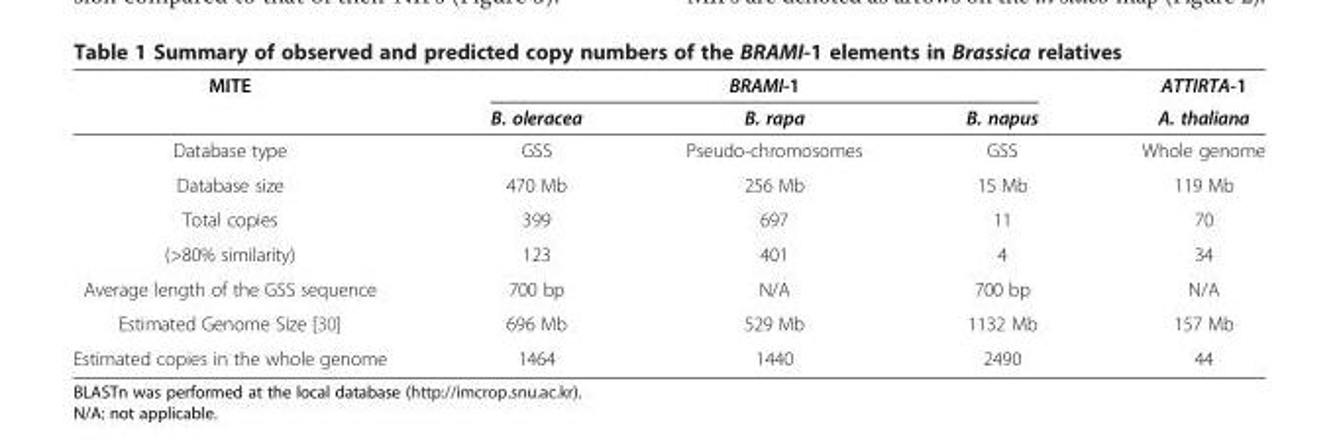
<table><thead><tr><td rowspan="2">MITE</td><td colspan="3">BRAMI-1</td><td rowspan="2">ATTIRTA-1 A. thaliana</td></tr><tr><td>B. oleracea</td><td>B. rapa</td><td>B. napus</td></tr></thead><tbody><tr><td>Database type</td><td>GSS</td><td>Pseudo-chromosomes</td><td>GSS</td><td>Whole genome</td></tr><tr><td>Database size</td><td>470 Mb</td><td>256 Mb</td><td>15 Mb</td><td>119 Mb</td></tr><tr><td>Total copies</td><td>399</td><td>697</td><td>11</td><td>70</td></tr><tr><td>(&gt;80% similarity)</td><td>123</td><td>401</td><td>4</td><td>34</td></tr><tr><td>Average length of the GSS sequence</td><td>700 bp</td><td>N/A</td><td>700 bp</td><td>N/A</td></tr><tr><td>Estimated Genome Size [30]</td><td>696 Mb</td><td>529 Mb</td><td>1132 Mb</td><td>157 Mb</td></tr><tr><td>Estimated copies in the whole genome</td><td>1464</td><td>1440</td><td>2490</td><td>44</td></tr></tbody></table>